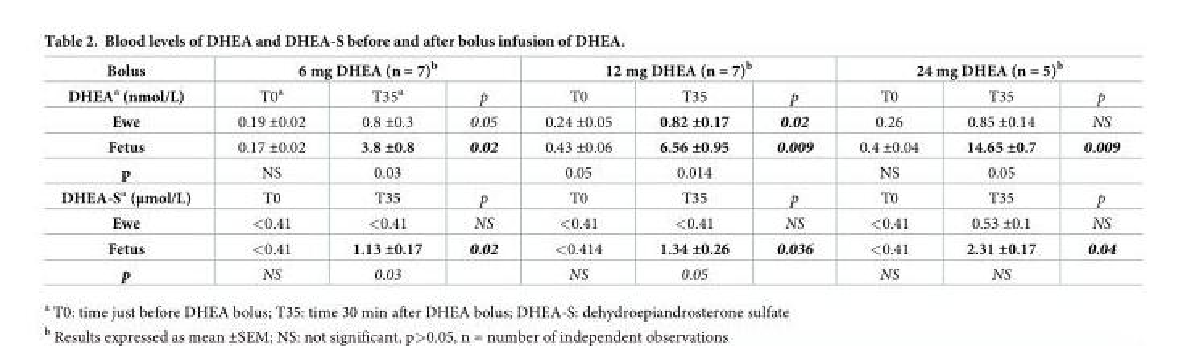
<table><thead><tr><td rowspan="2">Bolus DHEA<sup>a</sup> (nmol/L)</td><td colspan="3">6 mg DHEA (n = 7)<sup>b</sup></td><td colspan="3">12 mg DHEA (n = 7)<sup>b</sup></td><td colspan="3">24 mg DHEA (n = 5)<sup>b</sup></td></tr><tr><td>T0<sup>a</sup></td><td>T35<sup>a</sup></td><td>p</td><td>T0</td><td>T35</td><td>p</td><td>T0</td><td>T35</td><td>p</td></tr></thead><tbody><tr><td>Ewe</td><td>0.19 ±0.02</td><td>0.8 ±0.3</td><td>0.05</td><td>0.24 ±0.05</td><td>0.82 ±0.17</td><td>0.02</td><td>0.26</td><td>0.85 ±0.14</td><td>NS</td></tr><tr><td>Fetus</td><td>0.17 ±0.02</td><td>3.8 ±0.8</td><td>0.02</td><td>0.43 ±0.06</td><td>6.56 ±0.95</td><td>0.009</td><td>0.4 ±0.04</td><td>14.65 ±0.7</td><td>0.009</td></tr><tr><td>p</td><td>NS</td><td>0.03</td><td></td><td>0.05</td><td>0.014</td><td></td><td>NS</td><td>0.05</td><td></td></tr><tr><td>DHEA-S<sup>a</sup> (μmol/L)</td><td>T0</td><td>T35</td><td>p</td><td>T0</td><td>T35</td><td>p</td><td>T0</td><td>T35</td><td>p</td></tr><tr><td>Ewe</td><td>&lt;0.41</td><td>&lt;0.41</td><td>NS</td><td>&lt;0.41</td><td>&lt;0.41</td><td>NS</td><td>&lt;0.41</td><td>0.53 ±0.1</td><td>NS</td></tr><tr><td>Fetus</td><td>&lt;0.41</td><td>1.13 ±0.17</td><td>0.02</td><td>&lt;0.414</td><td>1.34 ±0.26</td><td>0.036</td><td>&lt;0.41</td><td>2.31 ±0.17</td><td>0.04</td></tr><tr><td>p</td><td>NS</td><td>0.03</td><td></td><td>NS</td><td>0.05</td><td></td><td>NS</td><td>NS</td><td></td></tr></tbody></table>